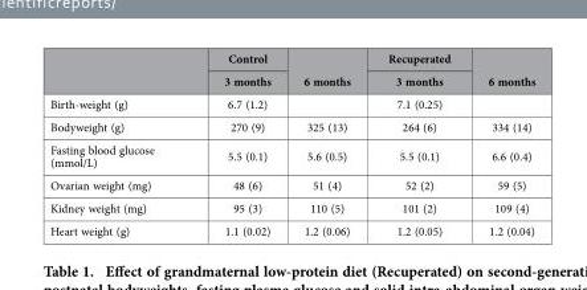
<table><thead><tr><td rowspan="2"></td><td rowspan="2">Control 3 months</td><td rowspan="2">6 months</td><td rowspan="2">Recuperated 3 months</td><td rowspan="2">6 months</td></tr><tr></tr></thead><tbody><tr><td>Birth-weight (g)</td><td>6.7 (1.2)</td><td></td><td>7.1 (0.25)</td><td></td></tr><tr><td>Bodyweight (g)</td><td>270 (9)</td><td>325 (13)</td><td>264 (6)</td><td>334 (14)</td></tr><tr><td>Fasting blood glucose (mmol/L)</td><td>5.5 (0.1)</td><td>5.6 (0.5)</td><td>5.5 (0.1)</td><td>6.6 (0.4)</td></tr><tr><td>Ovarian weight (mg)</td><td>48 (6)</td><td>51 (4)</td><td>52 (2)</td><td>59 (5)</td></tr><tr><td>Kidney weight (mg)</td><td>95 (3)</td><td>110 (5)</td><td>101 (2)</td><td>109 (4)</td></tr><tr><td>Heart weight (g)</td><td>1.1 (0.02)</td><td>1.2 (0.06)</td><td>1.2 (0.05)</td><td>1.2 (0.04)</td></tr></tbody></table>